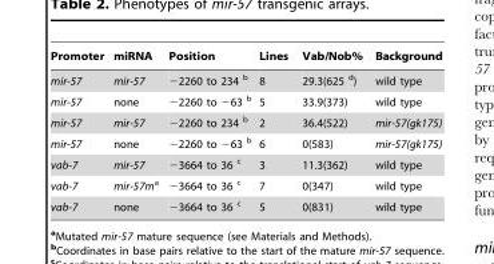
<table><thead><tr><td>Promoter</td><td>miRNA</td><td>Position</td><td>Lines</td><td>Vab/Nob%</td><td>Background</td></tr></thead><tbody><tr><td>mir-57</td><td>mir-57</td><td>−2260 to 234 b</td><td>8</td><td>29.3(625 d)</td><td>wild type</td></tr><tr><td>mir-57</td><td>none</td><td>−2260 to −63 b</td><td>5</td><td>33.9(373)</td><td>wild type</td></tr><tr><td>mir-57</td><td>mir-57</td><td>−2260 to 234 b</td><td>2</td><td>36.4(522)</td><td>mir-57(gk175)</td></tr><tr><td>mir-57</td><td>none</td><td>−2260 to −63 b</td><td>6</td><td>0(583)</td><td>mir-57(gk175)</td></tr><tr><td>vab-7</td><td>mir-57</td><td>−3664 to 36 c</td><td>3</td><td>11.3(362)</td><td>wild type</td></tr><tr><td>vab-7</td><td>mir-57ma</td><td>−3664 to 36 c</td><td>7</td><td>0(347)</td><td>wild type</td></tr><tr><td>vab-7</td><td>none</td><td>−3664 to 36 c</td><td>5</td><td>0(831)</td><td>wild type</td></tr></tbody></table>